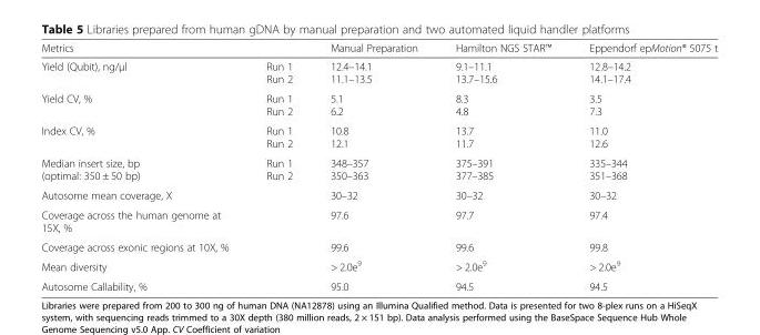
<table><thead><tr><td>Metrics</td><td></td><td>Manual Preparation</td><td>Hamilton NGS STAR™</td><td>Eppendorf epMotion® 5075 t</td></tr></thead><tbody><tr><td>Yield (Qubit), ng/μl</td><td>Run 1 Run 2</td><td>12.4–14.1 11.1–13.5</td><td>9.1–11.1 13.7–15.6</td><td>12.8–14.2 14.1–17.4</td></tr><tr><td>Yield CV, %</td><td>Run 1 Run 2</td><td>5.1 6.2</td><td>8.3 4.8</td><td>3.5 7.3</td></tr><tr><td>Index CV, %</td><td>Run 1 Run 2</td><td>10.8 12.1</td><td>13.7 11.7</td><td>11.0 12.6</td></tr><tr><td>Median insert size, bp (optimal: 350 ± 50 bp)</td><td>Run 1 Run 2</td><td>348–357 350–363</td><td>375–391 377–385</td><td>335–344 351–368</td></tr><tr><td>Autosome mean coverage, X</td><td></td><td>30–32</td><td>30–32</td><td>30–32</td></tr><tr><td>Coverage across the human genome at 15X, %</td><td></td><td>97.6</td><td>97.7</td><td>97.4</td></tr><tr><td>Coverage across exonic regions at 10X, %</td><td></td><td>99.6</td><td>99.6</td><td>99.8</td></tr><tr><td>Mean diversity</td><td></td><td>&gt; 2.0e<sup>9</sup></td><td>&gt; 2.0e<sup>9</sup></td><td>&gt; 2.0e<sup>9</sup></td></tr><tr><td>Autosome Callability, %</td><td></td><td>95.0</td><td>94.5</td><td>94.5</td></tr></tbody></table>